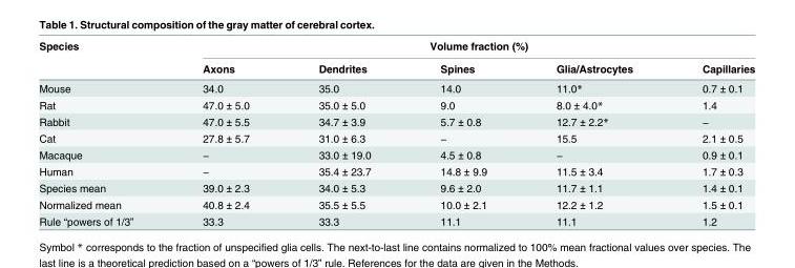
<table><thead><tr><td rowspan="2">Species</td><td colspan="5">Volume fraction (%)</td></tr><tr><td>Axons</td><td>Dendrites</td><td>Spines</td><td>Glia/Astrocytes</td><td>Capillaries</td></tr></thead><tbody><tr><td>Mouse</td><td>34.0</td><td>35.0</td><td>14.0</td><td>11.0*</td><td>0.7 ± 0.1</td></tr><tr><td>Rat</td><td>47.0 ± 5.0</td><td>35.0 ± 5.0</td><td>9.0</td><td>8.0 ± 4.0*</td><td>1.4</td></tr><tr><td>Rabbit</td><td>47.0 ± 5.5</td><td>34.7 ± 3.9</td><td>5.7 ± 0.8</td><td>12.7 ± 2.2*</td><td>−</td></tr><tr><td>Cat</td><td>27.8 ± 5.7</td><td>31.0 ± 6.3</td><td>−</td><td>15.5</td><td>2.1 ± 0.5</td></tr><tr><td>Macaque</td><td>−</td><td>33.0 ± 19.0</td><td>4.5 ± 0.8</td><td>−</td><td>0.9 ± 0.1</td></tr><tr><td>Human</td><td>−</td><td>35.4 ± 23.7</td><td>14.8 ± 9.9</td><td>11.5 ± 3.4</td><td>1.7 ± 0.3</td></tr><tr><td>Species mean</td><td>39.0 ± 2.3</td><td>34.0 ± 5.3</td><td>9.6 ± 2.0</td><td>11.7 ± 1.1</td><td>1.4 ± 0.1</td></tr><tr><td>Normalized mean</td><td>40.8 ± 2.4</td><td>35.5 ± 5.5</td><td>10.0 ± 2.1</td><td>12.2 ± 1.2</td><td>1.5 ± 0.1</td></tr><tr><td>Rule “powers of 1/3”</td><td>33.3</td><td>33.3</td><td>11.1</td><td>11.1</td><td>1.2</td></tr></tbody></table>